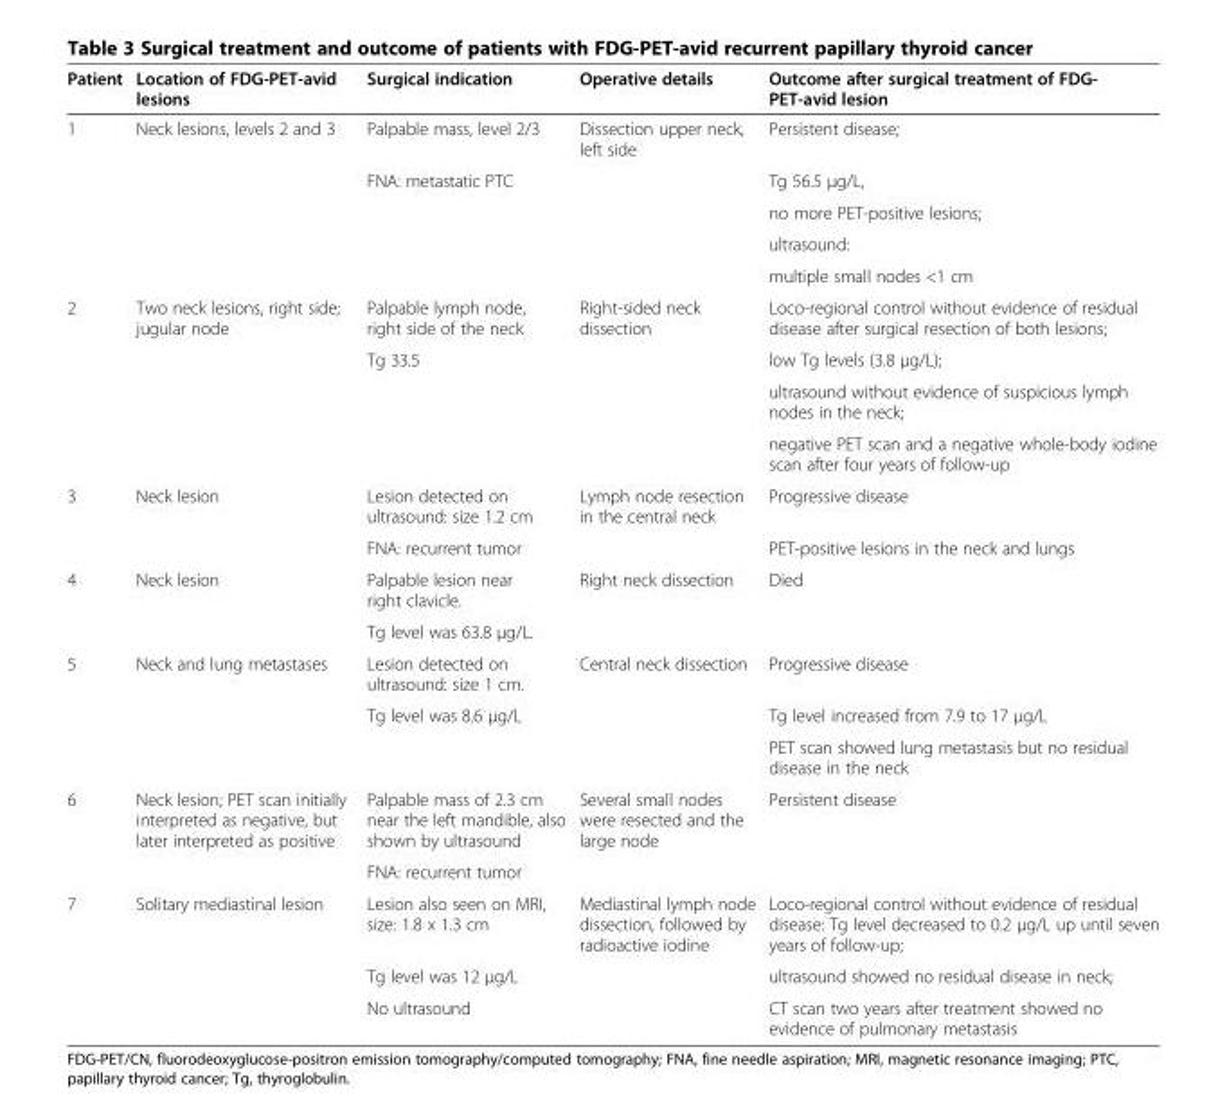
<table><thead><tr><td>Patient</td><td>Location of FDG-PET-avid lesions</td><td>Surgical indication</td><td>Operative details</td><td>Outcome after surgical treatment of FDG- PET-avid lesion</td></tr></thead><tbody><tr><td rowspan="5">1</td><td>Neck lesions, levels 2 and 3</td><td>Palpable mass, level 2/3</td><td>Dissection upper neck, left side</td><td>Persistent disease;</td></tr><tr><td></td><td>FNA: metastatic PTC</td><td></td><td>Tg 56.5 μg/L,</td></tr><tr><td></td><td></td><td></td><td>no more PET-positive lesions;</td></tr><tr><td></td><td></td><td></td><td>ultrasound:</td></tr><tr><td></td><td></td><td></td><td>multiple small nodes &lt;1 cm</td></tr><tr><td rowspan="4">2</td><td>Two neck lesions, right side; jugular node</td><td>Palpable lymph node, right side of the neck</td><td>Right-sided neck dissection</td><td>Loco-regional control without evidence of residual disease after surgical resection of both lesions;</td></tr><tr><td rowspan="3"></td><td>Tg 33.5</td><td></td><td>low Tg levels (3.8 μg/L);</td></tr><tr><td></td><td></td><td>ultrasound without evidence of suspicious lymph nodes in the neck;</td></tr><tr><td></td><td></td><td>negative PET scan and a negative whole-body iodine scan after four years of follow-up</td></tr><tr><td rowspan="2">3</td><td rowspan="2">Neck lesion</td><td>Lesion detected on ultrasound: size 1.2 cm</td><td>Lymph node resection in the central neck</td><td>Progressive disease</td></tr><tr><td>FNA: recurrent tumor</td><td></td><td>PET-positive lesions in the neck and lungs</td></tr><tr><td rowspan="2">4</td><td rowspan="2">Neck lesion</td><td>Palpable lesion near right clavicle.</td><td>Right neck dissection</td><td>Died</td></tr><tr><td>Tg level was 63.8 μg/L.</td><td></td><td></td></tr><tr><td rowspan="3">5</td><td rowspan="3">Neck and lung metastases</td><td>Lesion detected on ultrasound: size 1 cm.</td><td>Central neck dissection</td><td>Progressive disease</td></tr><tr><td>Tg level was 8.6 μg/L</td><td></td><td>Tg level increased from 7.9 to 17 μg/L</td></tr><tr><td></td><td></td><td>PET scan showed lung metastasis but no residual disease in the neck</td></tr><tr><td rowspan="2">6</td><td>Neck lesion; PET scan initially interpreted as negative, but later interpreted as positive</td><td>Palpable mass of 2.3 cm near the left mandible, also shown by ultrasound</td><td>Several small nodes were resected and the large node</td><td>Persistent disease</td></tr><tr><td></td><td>FNA: recurrent tumor</td><td></td><td></td></tr><tr><td rowspan="3">7</td><td>Solitary mediastinal lesion</td><td>Lesion also seen on MRI, size: 1.8 x 1.3 cm</td><td>Mediastinal lymph node dissection, followed by radioactive iodine</td><td>Loco-regional control without evidence of residual disease: Tg level decreased to 0.2 μg/L up until seven years of follow-up;</td></tr><tr><td></td><td>Tg level was 12 μg/L</td><td></td><td>ultrasound showed no residual disease in neck;</td></tr><tr><td></td><td>No ultrasound</td><td></td><td>CT scan two years after treatment showed no evidence of pulmonary metastasis</td></tr></tbody></table>